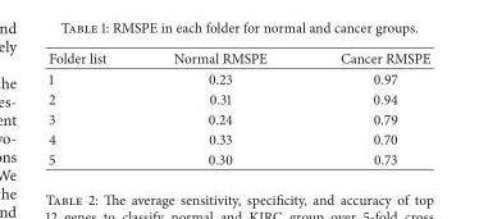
<table><thead><tr><td>Folder list</td><td>Normal RMSPE</td><td>Cancer RMSPE</td></tr></thead><tbody><tr><td>1</td><td>0.23</td><td>0.97</td></tr><tr><td>2</td><td>0.31</td><td>0.94</td></tr><tr><td>3</td><td>0.24</td><td>0.79</td></tr><tr><td>4</td><td>0.33</td><td>0.70</td></tr><tr><td>5</td><td>0.30</td><td>0.73</td></tr></tbody></table>